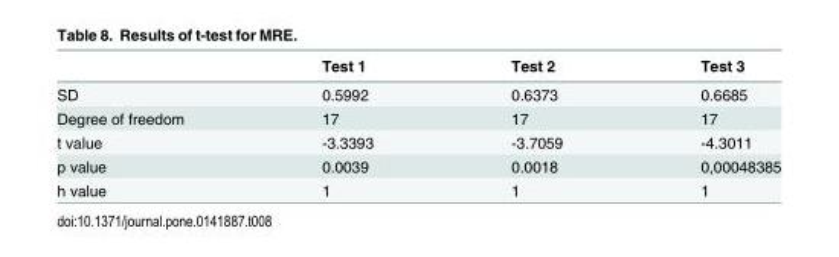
<table><thead><tr><td></td><td>Test 1</td><td>Test 2</td><td>Test 3</td></tr></thead><tbody><tr><td>SD</td><td>0.5992</td><td>0.6373</td><td>0.6685</td></tr><tr><td>Degree of freedom</td><td>17</td><td>17</td><td>17</td></tr><tr><td>t value</td><td>-3.3393</td><td>-3.7059</td><td>-4.3011</td></tr><tr><td>p value</td><td>0.0039</td><td>0.0018</td><td>0,00048385</td></tr><tr><td>h value</td><td>1</td><td>1</td><td>1</td></tr></tbody></table>